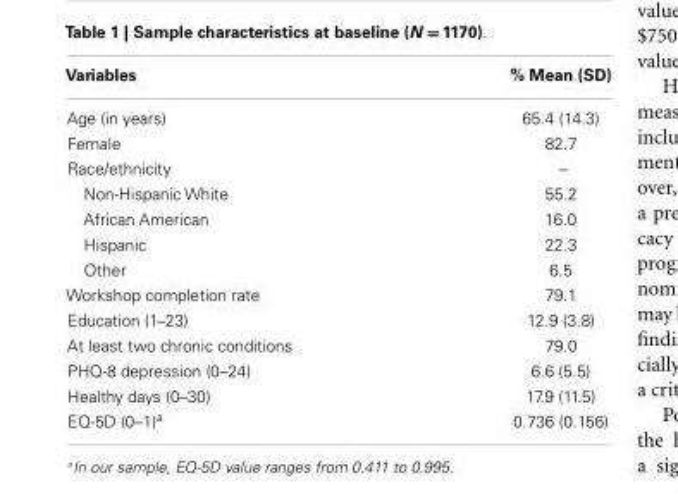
<table><thead><tr><td>Variables</td><td>% Mean (SD)</td></tr></thead><tbody><tr><td>Age (in years)</td><td>65.4 (14.3)</td></tr><tr><td>Female</td><td>82.7</td></tr><tr><td>Race/ethnicity</td><td>–</td></tr><tr><td>Non-Hispanic White</td><td>55.2</td></tr><tr><td>African American</td><td>16.0</td></tr><tr><td>Hispanic</td><td>22.3</td></tr><tr><td>Other</td><td>6.5</td></tr><tr><td>Workshop completion rate</td><td>79.1</td></tr><tr><td>Education (1–23)</td><td>12.9 (3.8)</td></tr><tr><td>At least two chronic conditions</td><td>79.0</td></tr><tr><td>PHQ-8 depression (0–24)</td><td>6.6 (5.5)</td></tr><tr><td>Healthy days (0–30)</td><td>17.9 (11.5)</td></tr><tr><td>EQ-5D (0–1)<sup>a</sup></td><td>0.736 (0.156)</td></tr></tbody></table>